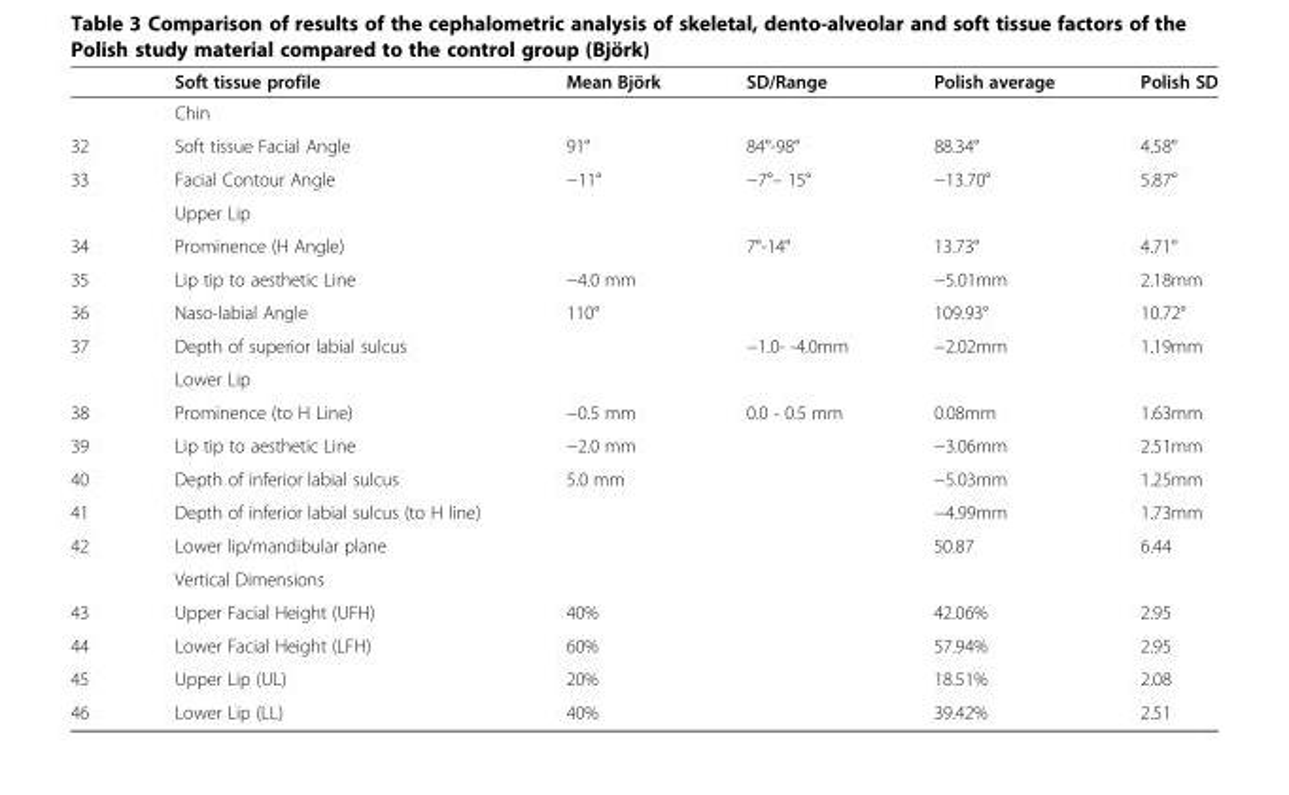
<table><thead><tr><td></td><td>Soft tissue profile</td><td>Mean Björk</td><td>SD/Range</td><td>Polish average</td><td>Polish SD</td></tr></thead><tbody><tr><td></td><td>Chin</td><td></td><td></td><td></td><td></td></tr><tr><td>32</td><td>Soft tissue Facial Angle</td><td>91°</td><td>84°-98°</td><td>88.34°</td><td>4.58°</td></tr><tr><td rowspan="2">33</td><td>Facial Contour Angle</td><td>−11°</td><td>−7°– 15°</td><td>−13.70°</td><td>5.87°</td></tr><tr><td>Upper Lip</td><td></td><td></td><td></td><td></td></tr><tr><td>34</td><td>Prominence (H Angle)</td><td></td><td>7°-14°</td><td>13.73°</td><td>4.71°</td></tr><tr><td>35</td><td>Lip tip to aesthetic Line</td><td>−4.0 mm</td><td></td><td>−5.01mm</td><td>2.18mm</td></tr><tr><td>36</td><td>Naso-labial Angle</td><td>110°</td><td></td><td>109.93°</td><td>10.72°</td></tr><tr><td rowspan="2">37</td><td>Depth of superior labial sulcus</td><td></td><td>−1.0- -4.0mm</td><td>−2.02mm</td><td>1.19mm</td></tr><tr><td>Lower Lip</td><td></td><td></td><td></td><td></td></tr><tr><td>38</td><td>Prominence (to H Line)</td><td>−0.5 mm</td><td>0.0 - 0.5 mm</td><td>0.08mm</td><td>1.63mm</td></tr><tr><td>39</td><td>Lip tip to aesthetic Line</td><td>−2.0 mm</td><td></td><td>−3.06mm</td><td>2.51mm</td></tr><tr><td>40</td><td>Depth of inferior labial sulcus</td><td>5.0 mm</td><td></td><td>−5.03mm</td><td>1.25mm</td></tr><tr><td>41</td><td>Depth of inferior labial sulcus (to H line)</td><td></td><td></td><td>−4.99mm</td><td>1.73mm</td></tr><tr><td rowspan="2">42</td><td>Lower lip/mandibular plane</td><td></td><td></td><td>50.87</td><td>6.44</td></tr><tr><td>Vertical Dimensions</td><td></td><td></td><td></td><td></td></tr><tr><td>43</td><td>Upper Facial Height (UFH)</td><td>40%</td><td></td><td>42.06%</td><td>2.95</td></tr><tr><td>44</td><td>Lower Facial Height (LFH)</td><td>60%</td><td></td><td>57.94%</td><td>2.95</td></tr><tr><td>45</td><td>Upper Lip (UL)</td><td>20%</td><td></td><td>18.51%</td><td>2.08</td></tr><tr><td>46</td><td>Lower Lip (LL)</td><td>40%</td><td></td><td>39.42%</td><td>2.51</td></tr></tbody></table>